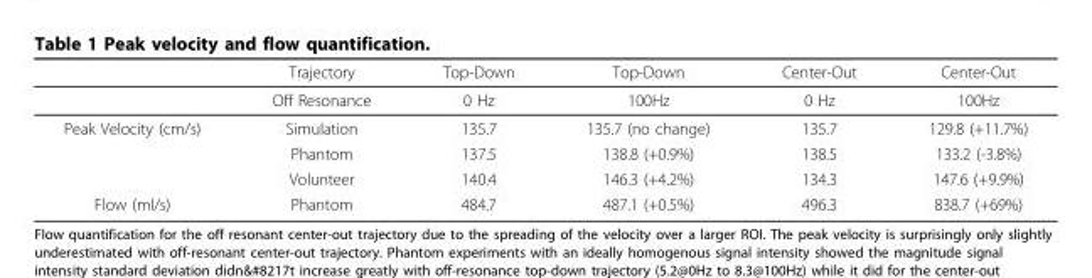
<table><thead><tr><td></td><td>Trajectory</td><td>Top-Down</td><td>Top-Down</td><td>Center-Out</td><td>Center-Out</td></tr></thead><tbody><tr><td></td><td>Off Resonance</td><td>0 Hz</td><td>100Hz</td><td>0 Hz</td><td>100Hz</td></tr><tr><td rowspan="3">Peak Velocity (cm/s)</td><td>Simulation</td><td>135.7</td><td>135.7 (no change)</td><td>135.7</td><td>129.8 (+11.7%)</td></tr><tr><td>Phantom</td><td>137.5</td><td>138.8 (+0.9%)</td><td>138.5</td><td>133.2 (-3.8%)</td></tr><tr><td>Volunteer</td><td>140.4</td><td>146.3 (+4.2%)</td><td>134.3</td><td>147.6 (+9.9%)</td></tr><tr><td>Flow (ml/s)</td><td>Phantom</td><td>484.7</td><td>487.1 (+0.5%)</td><td>496.3</td><td>838.7 (+69%)</td></tr></tbody></table>